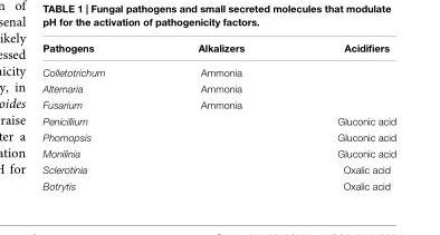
<table><thead><tr><td>Pathogens</td><td>Alkalizers</td><td>Acidifiers</td></tr></thead><tbody><tr><td>Colletotrichum</td><td>Ammonia</td><td></td></tr><tr><td>Alternaria</td><td>Ammonia</td><td></td></tr><tr><td>Fusarium</td><td>Ammonia</td><td></td></tr><tr><td>Penicillium</td><td></td><td>Gluconic acid</td></tr><tr><td>Phomopsis</td><td></td><td>Gluconic acid</td></tr><tr><td>Monilinia</td><td></td><td>Gluconic acid</td></tr><tr><td>Sclerotinia</td><td></td><td>Oxalic acid</td></tr><tr><td>Botrytis</td><td></td><td>Oxalic acid</td></tr></tbody></table>